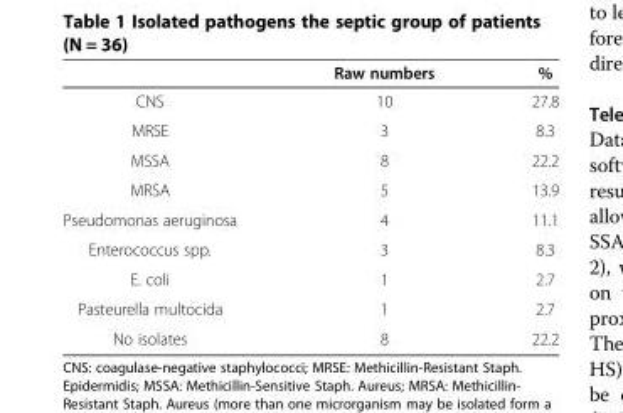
<table><thead><tr><td></td><td>Raw numbers</td><td>%</td></tr></thead><tbody><tr><td>CNS</td><td>10</td><td>27.8</td></tr><tr><td>MRSE</td><td>3</td><td>8.3</td></tr><tr><td>MSSA</td><td>8</td><td>22.2</td></tr><tr><td>MRSA</td><td>5</td><td>13.9</td></tr><tr><td>Pseudomonas aeruginosa</td><td>4</td><td>11.1</td></tr><tr><td>Enterococcus spp.</td><td>3</td><td>8.3</td></tr><tr><td>E. coli</td><td>1</td><td>2.7</td></tr><tr><td>Pasteurella multocida</td><td>1</td><td>2.7</td></tr><tr><td>No isolates</td><td>8</td><td>22.2</td></tr></tbody></table>